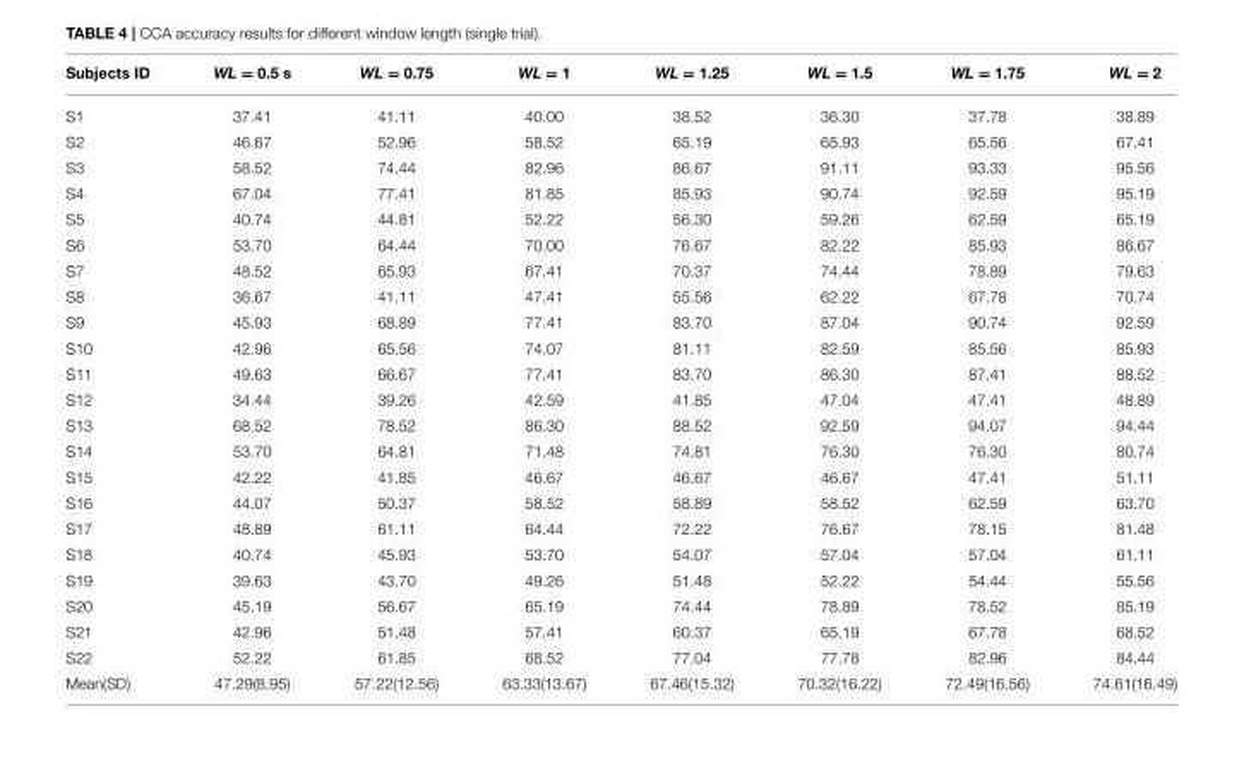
<table><thead><tr><td>Subjects ID</td><td>WL = 0.5 s</td><td>WL = 0.75</td><td>WL = 1</td><td>WL = 1.25</td><td>WL = 1.5</td><td>WL = 1.75</td><td>WL = 2</td></tr></thead><tbody><tr><td>S1</td><td>37.41</td><td>41.11</td><td>40.00</td><td>38.52</td><td>36.30</td><td>37.78</td><td>38.89</td></tr><tr><td>S2</td><td>46.67</td><td>52.96</td><td>58.52</td><td>65.19</td><td>65.93</td><td>65.56</td><td>67.41</td></tr><tr><td>S3</td><td>58.52</td><td>74.44</td><td>82.96</td><td>86.67</td><td>91.11</td><td>93.33</td><td>95.56</td></tr><tr><td>S4</td><td>67.04</td><td>77.41</td><td>81.85</td><td>85.93</td><td>90.74</td><td>92.59</td><td>95.19</td></tr><tr><td>S5</td><td>40.74</td><td>44.81</td><td>52.22</td><td>56.30</td><td>59.26</td><td>62.59</td><td>65.19</td></tr><tr><td>S6</td><td>53.70</td><td>64.44</td><td>70.00</td><td>76.67</td><td>82.22</td><td>85.93</td><td>86.67</td></tr><tr><td>S7</td><td>48.52</td><td>65.93</td><td>67.41</td><td>70.37</td><td>74.44</td><td>78.89</td><td>79.63</td></tr><tr><td>S8</td><td>36.67</td><td>41.11</td><td>47.41</td><td>55.56</td><td>62.22</td><td>67.78</td><td>70.74</td></tr><tr><td>S9</td><td>45.93</td><td>68.89</td><td>77.41</td><td>83.70</td><td>87.04</td><td>90.74</td><td>92.59</td></tr><tr><td>S10</td><td>42.96</td><td>65.56</td><td>74.07</td><td>81.11</td><td>82.59</td><td>85.56</td><td>85.93</td></tr><tr><td>S11</td><td>49.63</td><td>66.67</td><td>77.41</td><td>83.70</td><td>86.30</td><td>87.41</td><td>88.52</td></tr><tr><td>S12</td><td>34.44</td><td>39.26</td><td>42.59</td><td>41.85</td><td>47.04</td><td>47.41</td><td>48.89</td></tr><tr><td>S13</td><td>68.52</td><td>78.52</td><td>86.30</td><td>88.52</td><td>92.59</td><td>94.07</td><td>94.44</td></tr><tr><td>S14</td><td>53.70</td><td>64.81</td><td>71.48</td><td>74.81</td><td>76.30</td><td>76.30</td><td>80.74</td></tr><tr><td>S15</td><td>42.22</td><td>41.85</td><td>46.67</td><td>46.67</td><td>46.67</td><td>47.41</td><td>51.11</td></tr><tr><td>S16</td><td>44.07</td><td>50.37</td><td>58.52</td><td>58.89</td><td>58.52</td><td>62.59</td><td>63.70</td></tr><tr><td>S17</td><td>48.89</td><td>61.11</td><td>64.44</td><td>72.22</td><td>76.67</td><td>78.15</td><td>81.48</td></tr><tr><td>S18</td><td>40.74</td><td>45.93</td><td>53.70</td><td>54.07</td><td>57.04</td><td>57.04</td><td>61.11</td></tr><tr><td>S19</td><td>39.63</td><td>43.70</td><td>49.26</td><td>51.48</td><td>52.22</td><td>54.44</td><td>55.56</td></tr><tr><td>S20</td><td>45.19</td><td>56.67</td><td>65.19</td><td>74.44</td><td>78.89</td><td>78.52</td><td>85.19</td></tr><tr><td>S21</td><td>42.96</td><td>51.48</td><td>57.41</td><td>60.37</td><td>65.19</td><td>67.78</td><td>68.52</td></tr><tr><td>S22</td><td>52.22</td><td>61.85</td><td>68.52</td><td>77.04</td><td>77.78</td><td>82.96</td><td>84.44</td></tr><tr><td>Mean(SD)</td><td>47.29(8.95)</td><td>57.22(12.56)</td><td>63.33(13.67)</td><td>67.46(15.32)</td><td>70.32(16.22)</td><td>72.49(16.56)</td><td>74.61(16.49)</td></tr></tbody></table>